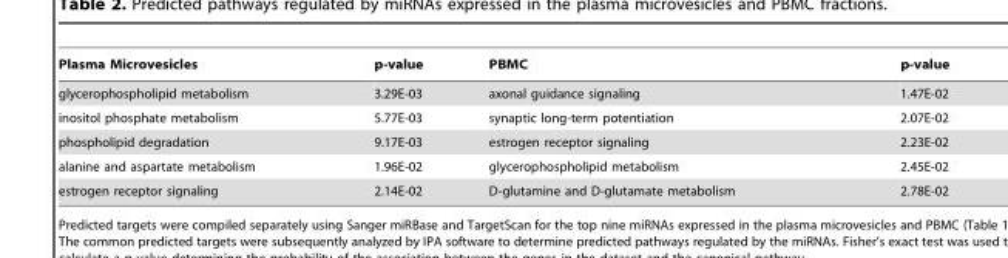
<table><thead><tr><td>Plasma Microvesicles</td><td>p-value</td><td>PBMC</td><td>p-value</td></tr></thead><tbody><tr><td>glycerophospholipid metabolism</td><td>3.29E-03</td><td>axonal guidance signaling</td><td>1.47E-02</td></tr><tr><td>inositol phosphate metabolism</td><td>5.77E-03</td><td>synaptic long-term potentiation</td><td>2.07E-02</td></tr><tr><td>phospholipid degradation</td><td>9.17E-03</td><td>estrogen receptor signaling</td><td>2.23E-02</td></tr><tr><td>alanine and aspartate metabolism</td><td>1.96E-02</td><td>glycerophospholipid metabolism</td><td>2.45E-02</td></tr><tr><td>estrogen receptor signaling</td><td>2.14E-02</td><td>D-glutamine and D-glutamate metabolism</td><td>2.78E-02</td></tr></tbody></table>